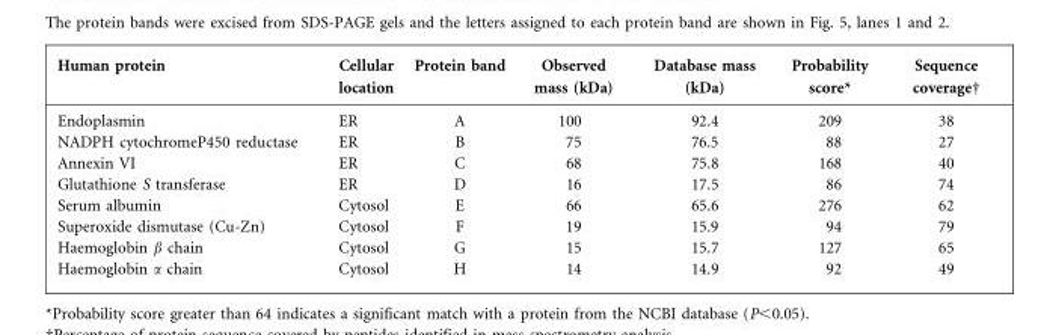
<table><thead><tr><td>Human protein</td><td>Cellular location</td><td>Protein band</td><td>Observed mass (kDa)</td><td>Database mass (kDa)</td><td>Probability score*</td><td>Sequence coverage†</td></tr></thead><tbody><tr><td>Endoplasmin</td><td>ER</td><td>A</td><td>100</td><td>92.4</td><td>209</td><td>38</td></tr><tr><td>NADPH cytochromeP450 reductase</td><td>ER</td><td>B</td><td>75</td><td>76.5</td><td>88</td><td>27</td></tr><tr><td>Annexin VI</td><td>ER</td><td>C</td><td>68</td><td>75.8</td><td>168</td><td>40</td></tr><tr><td>Glutathione S transferase</td><td>ER</td><td>D</td><td>16</td><td>17.5</td><td>86</td><td>74</td></tr><tr><td>Serum albumin</td><td>Cytosol</td><td>E</td><td>66</td><td>65.6</td><td>276</td><td>62</td></tr><tr><td>Superoxide dismutase (Cu-Zn)</td><td>Cytosol</td><td>F</td><td>19</td><td>15.9</td><td>94</td><td>79</td></tr><tr><td>Haemoglobin β chain</td><td>Cytosol</td><td>G</td><td>15</td><td>15.7</td><td>127</td><td>65</td></tr><tr><td>Haemoglobin α chain</td><td>Cytosol</td><td>H</td><td>14</td><td>14.9</td><td>92</td><td>49</td></tr></tbody></table>